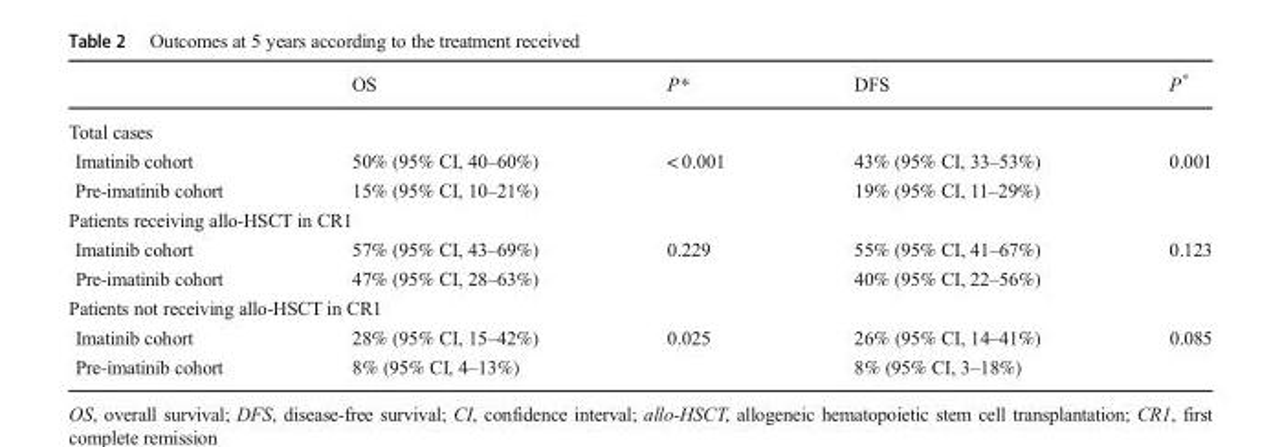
<table><thead><tr><td></td><td>OS</td><td>P*</td><td>DFS</td><td>P*</td></tr></thead><tbody><tr><td colspan="5">Total cases</td></tr><tr><td>Imatinib cohort</td><td>50% (95% CI, 40–60%)</td><td>&lt; 0.001</td><td>43% (95% CI, 33–53%)</td><td>0.001</td></tr><tr><td>Pre-imatinib cohort</td><td>15% (95% CI, 10–21%)</td><td></td><td>19% (95% CI, 11–29%)</td><td></td></tr><tr><td colspan="5">Patients receiving allo-HSCT in CR1</td></tr><tr><td>Imatinib cohort</td><td>57% (95% CI, 43–69%)</td><td>0.229</td><td>55% (95% CI, 41–67%)</td><td>0.123</td></tr><tr><td>Pre-imatinib cohort</td><td>47% (95% CI, 28–63%)</td><td></td><td>40% (95% CI, 22–56%)</td><td></td></tr><tr><td colspan="5">Patients not receiving allo-HSCT in CR1</td></tr><tr><td>Imatinib cohort</td><td>28% (95% CI, 15–42%)</td><td>0.025</td><td>26% (95% CI, 14–41%)</td><td>0.085</td></tr><tr><td>Pre-imatinib cohort</td><td>8% (95% CI, 4–13%)</td><td></td><td>8% (95% CI, 3–18%)</td><td></td></tr></tbody></table>